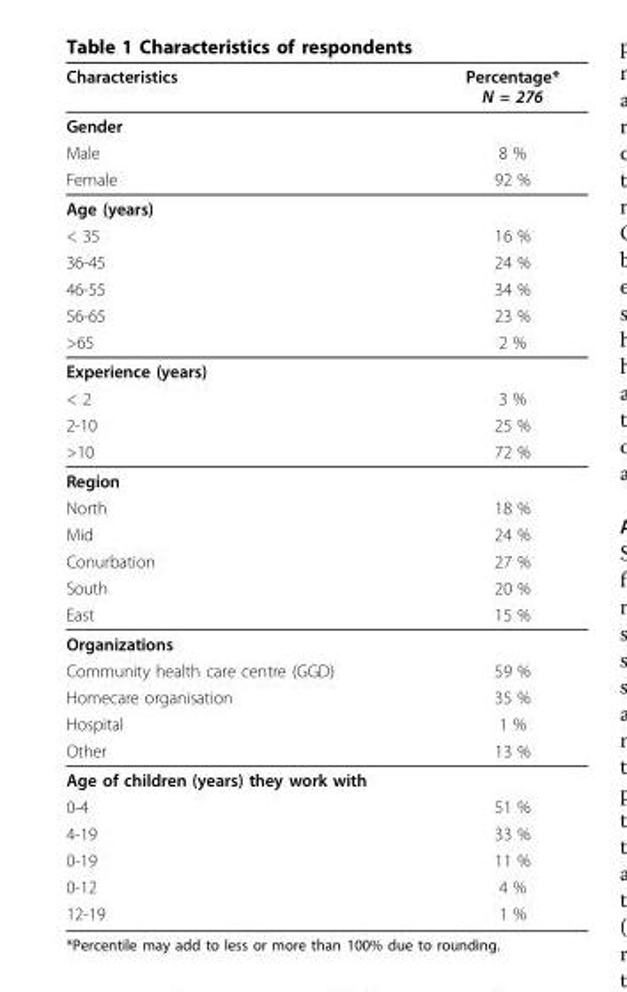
<table><thead><tr><td>Characteristics</td><td>Percentage* N = 276</td></tr></thead><tbody><tr><td colspan="2">Gender</td></tr><tr><td>Male</td><td>8 %</td></tr><tr><td>Female</td><td>92 %</td></tr><tr><td colspan="2">Age (years)</td></tr><tr><td>&lt; 35</td><td>16 %</td></tr><tr><td>36-45</td><td>24 %</td></tr><tr><td>46-55</td><td>34 %</td></tr><tr><td>56-65</td><td>23 %</td></tr><tr><td>&gt;65</td><td>2 %</td></tr><tr><td colspan="2">Experience (years)</td></tr><tr><td>&lt; 2</td><td>3 %</td></tr><tr><td>2-10</td><td>25 %</td></tr><tr><td>&gt;10</td><td>72 %</td></tr><tr><td colspan="2">Region</td></tr><tr><td>North</td><td>18 %</td></tr><tr><td>Mid</td><td>24 %</td></tr><tr><td>Conurbation</td><td>27 %</td></tr><tr><td>South</td><td>20 %</td></tr><tr><td>East</td><td>15 %</td></tr><tr><td colspan="2">Organizations</td></tr><tr><td>Community health care centre (GGD)</td><td>59 %</td></tr><tr><td>Homecare organisation</td><td>35 %</td></tr><tr><td>Hospital</td><td>1 %</td></tr><tr><td>Other</td><td>13 %</td></tr><tr><td colspan="2">Age of children (years) they work with</td></tr><tr><td>0-4</td><td>51 %</td></tr><tr><td>4-19</td><td>33 %</td></tr><tr><td>0-19</td><td>11 %</td></tr><tr><td>0-12</td><td>4 %</td></tr><tr><td>12-19</td><td>1 %</td></tr></tbody></table>